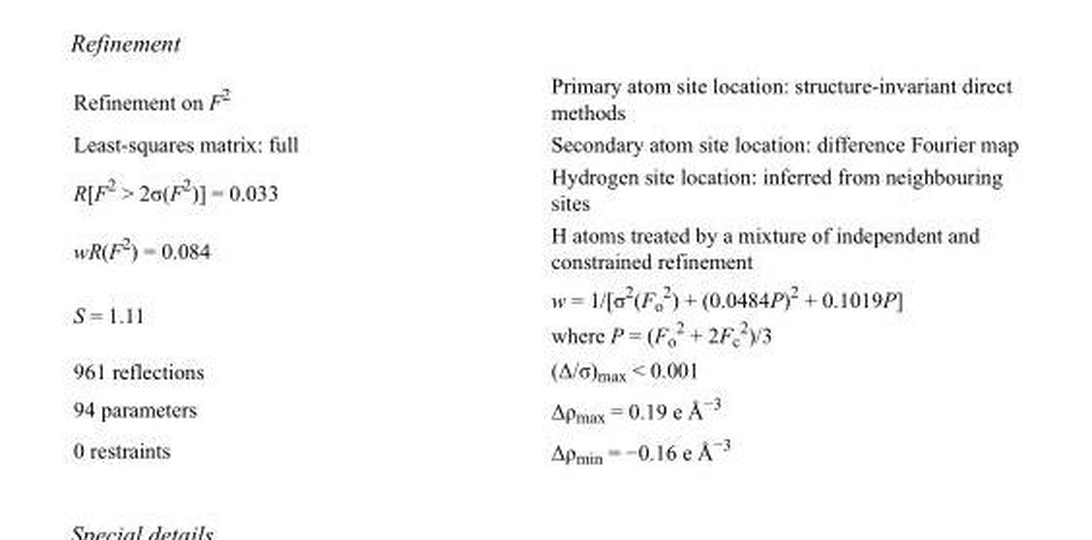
<table><tbody><tr><td>Refinement on F<sup>2</sup></td><td>Primary atom site location: structure-invariant direct methods</td></tr><tr><td>Least-squares matrix: full</td><td>Secondary atom site location: difference Fourier map</td></tr><tr><td>R[F<sup>2</sup> &gt; 2σ(F<sup>2</sup>)] = 0.033</td><td>Hydrogen site location: inferred from neighbouring sites</td></tr><tr><td>wR(F<sup>2</sup>) = 0.084</td><td>H atoms treated by a mixture of independent and constrained refinement</td></tr><tr><td>S = 1.11</td><td>w = 1/[σ<sup>2</sup>(F<sub>o</sub> <sup>2</sup>) + (0.0484P)<sup>2</sup> + 0.1019P] where P = (F<sub>o</sub> <sup>2</sup> + 2F<sub>c</sub> <sup>2</sup>)/3</td></tr><tr><td>961 reflections</td><td>(Δ/σ)<sub>max</sub> &lt; 0.001</td></tr><tr><td>94 parameters</td><td>Δρ<sub>max</sub> = 0.19 e Å<sup>−3</sup></td></tr><tr><td>0 restraints</td><td>Δρ<sub>min</sub> = −0.16 e Å<sup>−3</sup></td></tr></tbody></table>